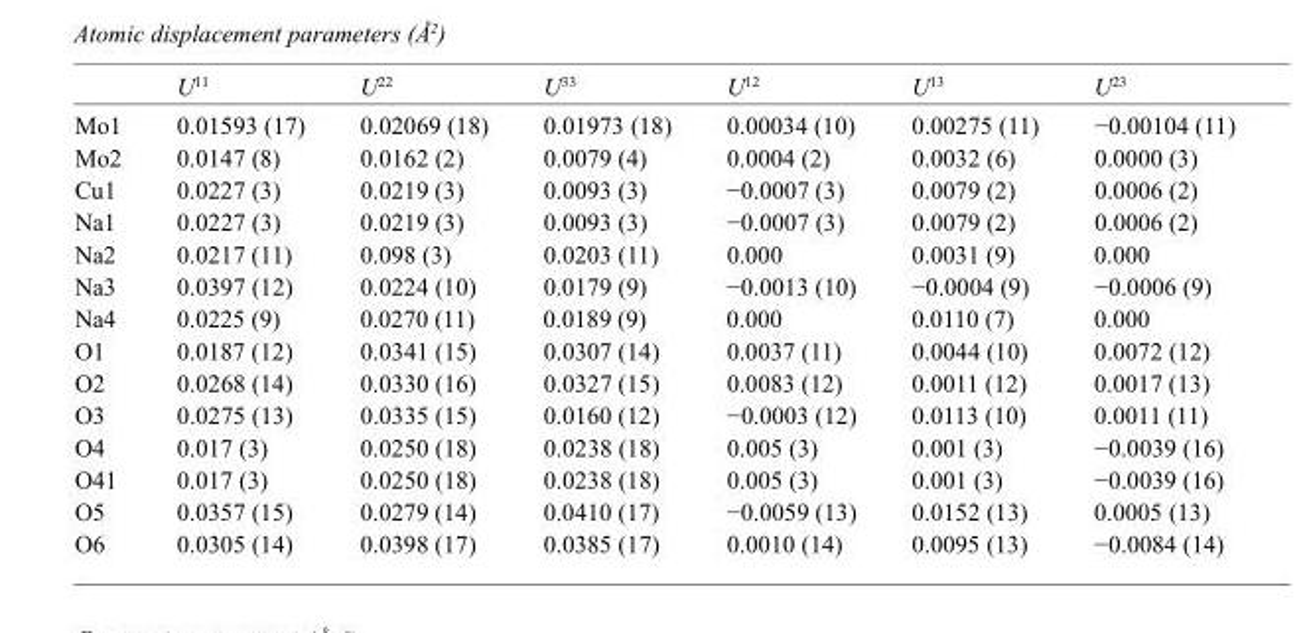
<table><thead><tr><td></td><td>U<sup>11</sup></td><td>U<sup>22</sup></td><td>U<sup>33</sup></td><td>U<sup>12</sup></td><td>U<sup>13</sup></td><td>U<sup>23</sup></td></tr></thead><tbody><tr><td>Mo1</td><td>0.01593 (17)</td><td>0.02069 (18)</td><td>0.01973 (18)</td><td>0.00034 (10)</td><td>0.00275 (11)</td><td>−0.00104 (11)</td></tr><tr><td>Mo2</td><td>0.0147 (8)</td><td>0.0162 (2)</td><td>0.0079 (4)</td><td>0.0004 (2)</td><td>0.0032 (6)</td><td>0.0000 (3)</td></tr><tr><td>Cu1</td><td>0.0227 (3)</td><td>0.0219 (3)</td><td>0.0093 (3)</td><td>−0.0007 (3)</td><td>0.0079 (2)</td><td>0.0006 (2)</td></tr><tr><td>Na1</td><td>0.0227 (3)</td><td>0.0219 (3)</td><td>0.0093 (3)</td><td>−0.0007 (3)</td><td>0.0079 (2)</td><td>0.0006 (2)</td></tr><tr><td>Na2</td><td>0.0217 (11)</td><td>0.098 (3)</td><td>0.0203 (11)</td><td>0.000</td><td>0.0031 (9)</td><td>0.000</td></tr><tr><td>Na3</td><td>0.0397 (12)</td><td>0.0224 (10)</td><td>0.0179 (9)</td><td>−0.0013 (10)</td><td>−0.0004 (9)</td><td>−0.0006 (9)</td></tr><tr><td>Na4</td><td>0.0225 (9)</td><td>0.0270 (11)</td><td>0.0189 (9)</td><td>0.000</td><td>0.0110 (7)</td><td>0.000</td></tr><tr><td>O1</td><td>0.0187 (12)</td><td>0.0341 (15)</td><td>0.0307 (14)</td><td>0.0037 (11)</td><td>0.0044 (10)</td><td>0.0072 (12)</td></tr><tr><td>O2</td><td>0.0268 (14)</td><td>0.0330 (16)</td><td>0.0327 (15)</td><td>0.0083 (12)</td><td>0.0011 (12)</td><td>0.0017 (13)</td></tr><tr><td>O3</td><td>0.0275 (13)</td><td>0.0335 (15)</td><td>0.0160 (12)</td><td>−0.0003 (12)</td><td>0.0113 (10)</td><td>0.0011 (11)</td></tr><tr><td>O4</td><td>0.017 (3)</td><td>0.0250 (18)</td><td>0.0238 (18)</td><td>0.005 (3)</td><td>0.001 (3)</td><td>−0.0039 (16)</td></tr><tr><td>O41</td><td>0.017 (3)</td><td>0.0250 (18)</td><td>0.0238 (18)</td><td>0.005 (3)</td><td>0.001 (3)</td><td>−0.0039 (16)</td></tr><tr><td>O5</td><td>0.0357 (15)</td><td>0.0279 (14)</td><td>0.0410 (17)</td><td>−0.0059 (13)</td><td>0.0152 (13)</td><td>0.0005 (13)</td></tr><tr><td>O6</td><td>0.0305 (14)</td><td>0.0398 (17)</td><td>0.0385 (17)</td><td>0.0010 (14)</td><td>0.0095 (13)</td><td>−0.0084 (14)</td></tr></tbody></table>